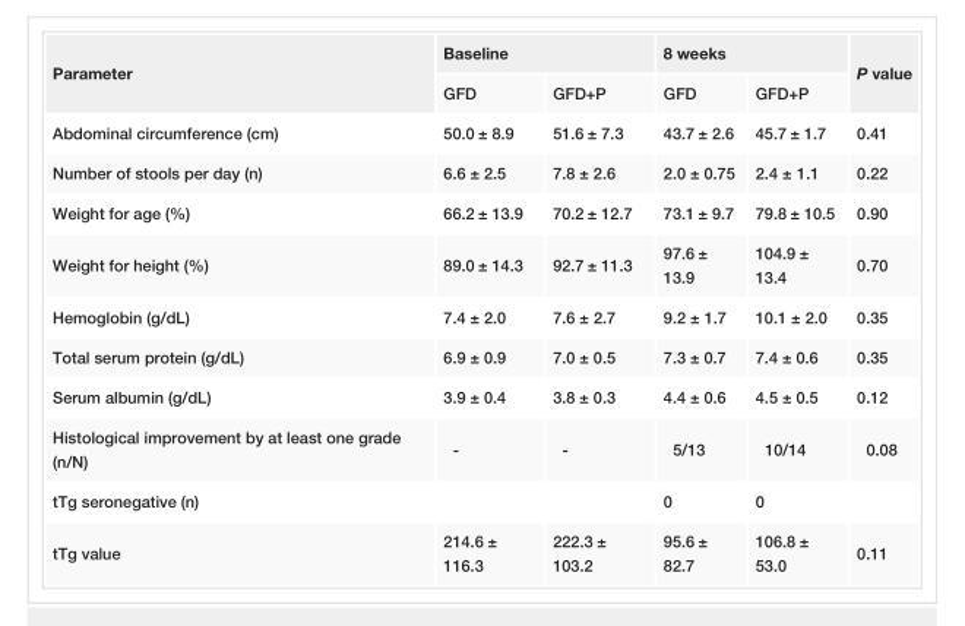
<table><tbody><tr><td rowspan="2">Parameter</td><td colspan="2">Baseline</td><td colspan="2">8 weeks</td><td rowspan="2">P value</td></tr><tr><td>GFD</td><td>GFD+P</td><td>GFD</td><td>GFD+P</td></tr><tr><td>Abdominal circumference (cm)</td><td>50.0 ± 8.9</td><td>51.6 ± 7.3</td><td>43.7 ± 2.6</td><td>45.7 ± 1.7</td><td>0.41</td></tr><tr><td>Number of stools per day (n)</td><td>6.6 ± 2.5</td><td>7.8 ± 2.6</td><td>2.0 ± 0.75</td><td>2.4 ± 1.1</td><td>0.22</td></tr><tr><td>Weight for age (%)</td><td>66.2 ± 13.9</td><td>70.2 ± 12.7</td><td>73.1 ± 9.7</td><td>79.8 ± 10.5</td><td>0.90</td></tr><tr><td>Weight for height (%)</td><td>89.0 ± 14.3</td><td>92.7 ± 11.3</td><td>97.6 ± 13.9</td><td>104.9 ± 13.4</td><td>0.70</td></tr><tr><td>Hemoglobin (g/dL)</td><td>7.4 ± 2.0</td><td>7.6 ± 2.7</td><td>9.2 ± 1.7</td><td>10.1 ± 2.0</td><td>0.35</td></tr><tr><td>Total serum protein (g/dL)</td><td>6.9 ± 0.9</td><td>7.0 ± 0.5</td><td>7.3 ± 0.7</td><td>7.4 ± 0.6</td><td>0.35</td></tr><tr><td>Serum albumin (g/dL)</td><td>3.9 ± 0.4</td><td>3.8 ± 0.3</td><td>4.4 ± 0.6</td><td>4.5 ± 0.5</td><td>0.12</td></tr><tr><td>Histological improvement by at least one grade (n/N)</td><td>-</td><td>-</td><td>5/13</td><td>10/14</td><td>0.08</td></tr><tr><td>tTg seronegative (n)</td><td></td><td></td><td>0</td><td>0</td><td></td></tr><tr><td>tTg value</td><td>214.6 ± 116.3</td><td>222.3 ± 103.2</td><td>95.6 ± 82.7</td><td>106.8 ± 53.0</td><td>0.11</td></tr></tbody></table>